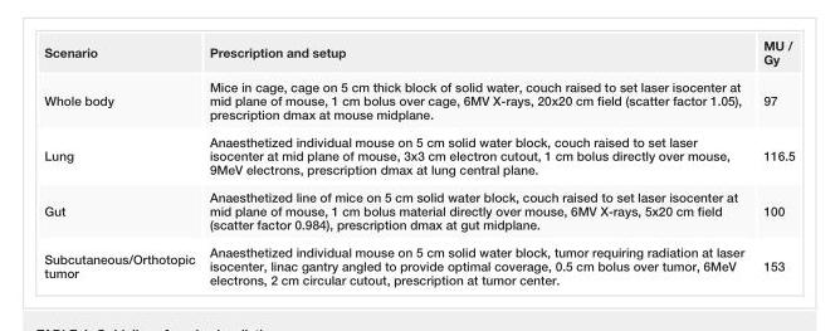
<table><tbody><tr><td>Scenario</td><td>Prescription and setup</td><td>MU / Gy</td></tr><tr><td>Whole body</td><td>Mice in cage, cage on 5 cm thick block of solid water, couch raised to set laser isocenter at mid plane of mouse, 1 cm bolus over cage, 6MV X-rays, 20x20 cm field (scatter factor 1.05), prescription dmax at mouse midplane.</td><td>97</td></tr><tr><td>Lung</td><td>Anaesthetized individual mouse on 5 cm solid water block, couch raised to set laser isocenter at mid plane of mouse, 3x3 cm electron cutout, 1 cm bolus directly over mouse, 9MeV electrons, prescription dmax at lung central plane.</td><td>116.5</td></tr><tr><td>Gut</td><td>Anaesthetized line of mice on 5 cm solid water block, couch raised to set laser isocenter at mid plane of mouse, 1 cm bolus material directly over mouse, 6MV X-rays, 5x20 cm field (scatter factor 0.984), prescription dmax at gut midplane.</td><td>100</td></tr><tr><td>Subcutaneous/Orthotopic tumor</td><td>Anaesthetized individual mouse on 5 cm solid water block, tumor requiring radiation at laser isocenter, linac gantry angled to provide optimal coverage, 0.5 cm bolus over tumor, 6MeV electrons, 2 cm circular cutout, prescription at tumor center.</td><td>153</td></tr></tbody></table>